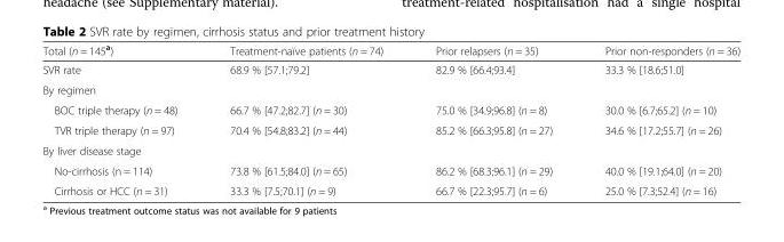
<table><thead><tr><td>Total (n = 145<sup>a</sup>)</td><td>Treatment-naïve patients (n = 74)</td><td>Prior relapsers (n = 35)</td><td>Prior non-responders (n = 36)</td></tr></thead><tbody><tr><td>SVR rate</td><td>68.9 % [57.1;79.2]</td><td>82.9 % [66.4;93.4]</td><td>33.3 % [18.6;51.0]</td></tr><tr><td colspan="4">By regimen</td></tr><tr><td>BOC triple therapy (n = 48)</td><td>66.7 % [47.2;82.7] (n = 30)</td><td>75.0 % [34.9;96.8] (n = 8)</td><td>30.0 % [6.7;65.2] (n = 10)</td></tr><tr><td>TVR triple therapy (n = 97)</td><td>70.4 % [54.8;83.2] (n = 44)</td><td>85.2 % [66.3;95.8] (n = 27)</td><td>34.6 % [17.2;55.7] (n = 26)</td></tr><tr><td colspan="4">By liver disease stage</td></tr><tr><td>No-cirrhosis (n = 114)</td><td>73.8 % [61.5;84.0] (n = 65)</td><td>86.2 % [68.3;96.1] (n = 29)</td><td>40.0 % [19.1;64.0] (n = 20)</td></tr><tr><td>Cirrhosis or HCC (n = 31)</td><td>33.3 % [7.5;70.1] (n = 9)</td><td>66.7 % [22.3;95.7] (n = 6)</td><td>25.0 % [7.3;52.4] (n = 16)</td></tr></tbody></table>